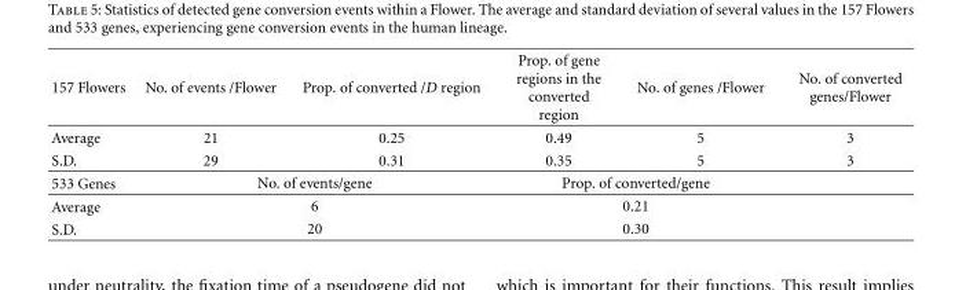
<table><thead><tr><td>157 Flowers</td><td>No. of events /Flower</td><td>Prop. of converted /D region</td><td>Prop. of gene regions in the converted region</td><td>No. of genes /Flower</td><td>No. of converted genes/Flower</td></tr></thead><tbody><tr><td>Average</td><td>21</td><td>0.25</td><td>0.49</td><td>5</td><td>3</td></tr><tr><td>S.D.</td><td>29</td><td>0.31</td><td>0.35</td><td>5</td><td>3</td></tr><tr><td>533 Genes</td><td colspan="2">No. of events/gene</td><td colspan="2">Prop. of converted/gene</td><td></td></tr><tr><td>Average</td><td colspan="2">6</td><td colspan="2">0.21</td><td></td></tr><tr><td>S.D.</td><td colspan="2">20</td><td colspan="2">0.30</td><td></td></tr></tbody></table>